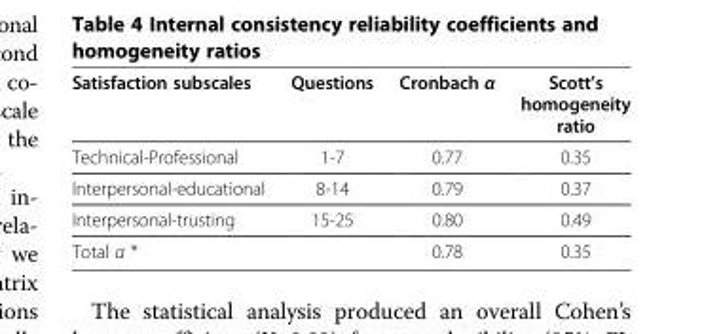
<table><thead><tr><td>Satisfaction subscales</td><td>Questions</td><td>Cronbach α</td><td>Scott’s homogeneity ratio</td></tr></thead><tbody><tr><td>Technical-Professional</td><td>1-7</td><td>0.77</td><td>0.35</td></tr><tr><td>Interpersonal-educational</td><td>8-14</td><td>0.79</td><td>0.37</td></tr><tr><td>Interpersonal-trusting</td><td>15-25</td><td>0.80</td><td>0.49</td></tr><tr><td>Total α *</td><td></td><td>0.78</td><td>0.35</td></tr></tbody></table>